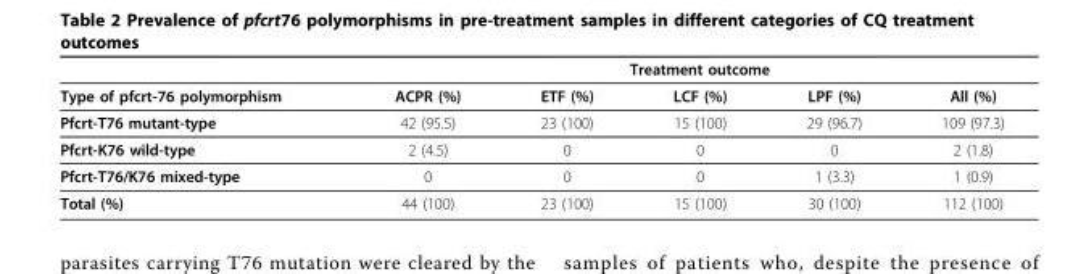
<table><thead><tr><td rowspan="2">Type of pfcrt-76 polymorphism</td><td colspan="5">Treatment outcome</td></tr><tr><td>ACPR (%)</td><td>ETF (%)</td><td>LCF (%)</td><td>LPF (%)</td><td>All (%)</td></tr></thead><tbody><tr><td>Pfcrt-T76 mutant-type</td><td>42 (95.5)</td><td>23 (100)</td><td>15 (100)</td><td>29 (96.7)</td><td>109 (97.3)</td></tr><tr><td>Pfcrt-K76 wild-type</td><td>2 (4.5)</td><td>0</td><td>0</td><td>0</td><td>2 (1.8)</td></tr><tr><td>Pfcrt-T76/K76 mixed-type</td><td>0</td><td>0</td><td>0</td><td>1 (3.3)</td><td>1 (0.9)</td></tr><tr><td>Total (%)</td><td>44 (100)</td><td>23 (100)</td><td>15 (100)</td><td>30 (100)</td><td>112 (100)</td></tr></tbody></table>